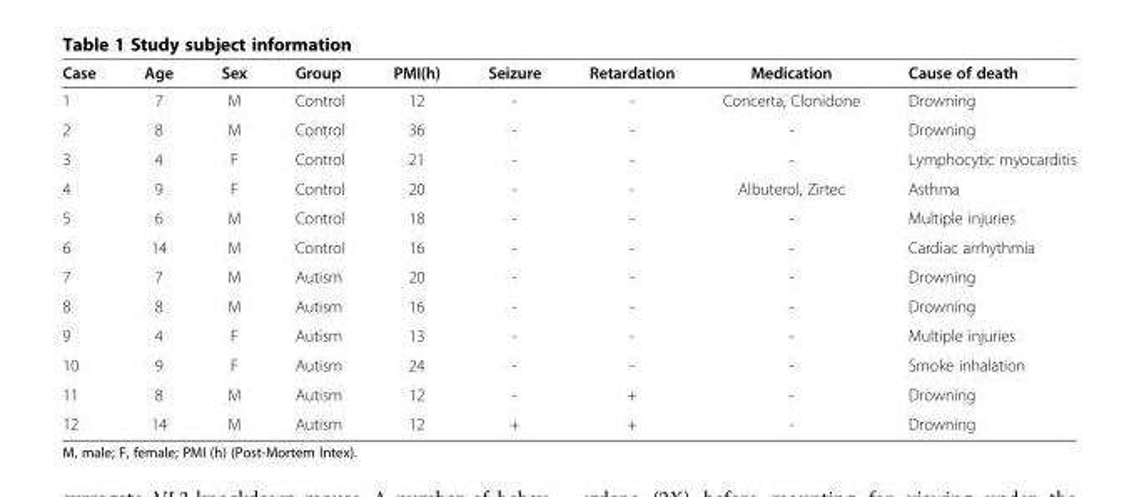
<table><thead><tr><td>Case</td><td>Age</td><td>Sex</td><td>Group</td><td>PMI(h)</td><td>Seizure</td><td>Retardation</td><td>Medication</td><td>Cause of death</td></tr></thead><tbody><tr><td>1</td><td>7</td><td>M</td><td>Control</td><td>12</td><td>-</td><td>-</td><td>Concerta, Clonidone</td><td>Drowning</td></tr><tr><td>2</td><td>8</td><td>M</td><td>Control</td><td>36</td><td>-</td><td>-</td><td>-</td><td>Drowning</td></tr><tr><td>3</td><td>4</td><td>F</td><td>Control</td><td>21</td><td>-</td><td>-</td><td>-</td><td>Lymphocytic myocarditis</td></tr><tr><td>4</td><td>9</td><td>F</td><td>Control</td><td>20</td><td>-</td><td>-</td><td>Albuterol, Zirtec</td><td>Asthma</td></tr><tr><td>5</td><td>6</td><td>M</td><td>Control</td><td>18</td><td>-</td><td>-</td><td>-</td><td>Multiple injuries</td></tr><tr><td>6</td><td>14</td><td>M</td><td>Control</td><td>16</td><td>-</td><td>-</td><td>-</td><td>Cardiac arrhythmia</td></tr><tr><td>7</td><td>7</td><td>M</td><td>Autism</td><td>20</td><td>-</td><td>-</td><td>-</td><td>Drowning</td></tr><tr><td>8</td><td>8</td><td>M</td><td>Autism</td><td>16</td><td>-</td><td>-</td><td>-</td><td>Drowning</td></tr><tr><td>9</td><td>4</td><td>F</td><td>Autism</td><td>13</td><td>-</td><td>-</td><td>-</td><td>Multiple injuries</td></tr><tr><td>10</td><td>9</td><td>F</td><td>Autism</td><td>24</td><td>-</td><td>-</td><td>-</td><td>Smoke inhalation</td></tr><tr><td>11</td><td>8</td><td>M</td><td>Autism</td><td>12</td><td>-</td><td>+</td><td>-</td><td>Drowning</td></tr><tr><td>12</td><td>14</td><td>M</td><td>Autism</td><td>12</td><td>+</td><td>+</td><td>-</td><td>Drowning</td></tr></tbody></table>